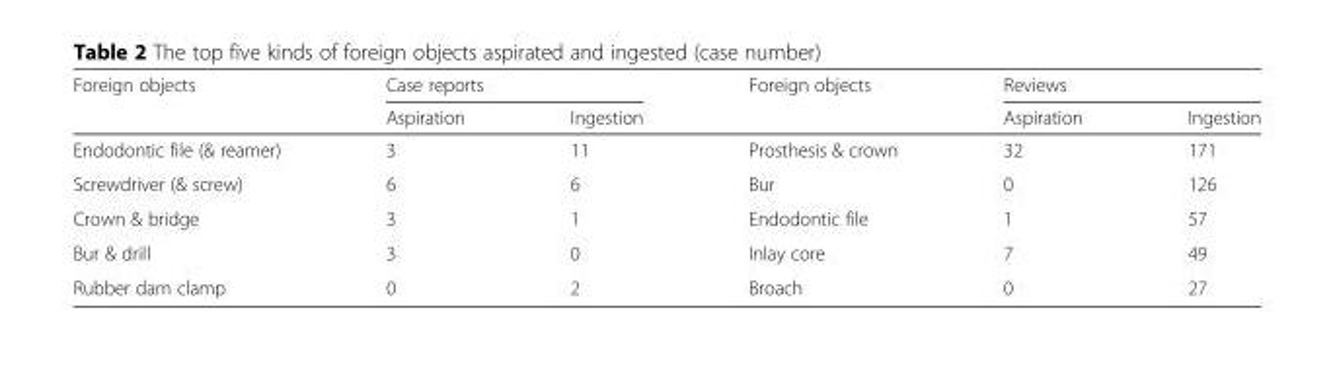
<table><thead><tr><td rowspan="2">Foreign objects</td><td colspan="2">Case reports</td><td rowspan="2">Foreign objects</td><td colspan="2">Reviews</td></tr><tr><td>Aspiration</td><td>Ingestion</td><td>Aspiration</td><td>Ingestion</td></tr></thead><tbody><tr><td>Endodontic file (&amp; reamer)</td><td>3</td><td>11</td><td>Prosthesis &amp; crown</td><td>32</td><td>171</td></tr><tr><td>Screwdriver (&amp; screw)</td><td>6</td><td>6</td><td>Bur</td><td>0</td><td>126</td></tr><tr><td>Crown &amp; bridge</td><td>3</td><td>1</td><td>Endodontic file</td><td>1</td><td>57</td></tr><tr><td>Bur &amp; drill</td><td>3</td><td>0</td><td>Inlay core</td><td>7</td><td>49</td></tr><tr><td>Rubber dam clamp</td><td>0</td><td>2</td><td>Broach</td><td>0</td><td>27</td></tr></tbody></table>